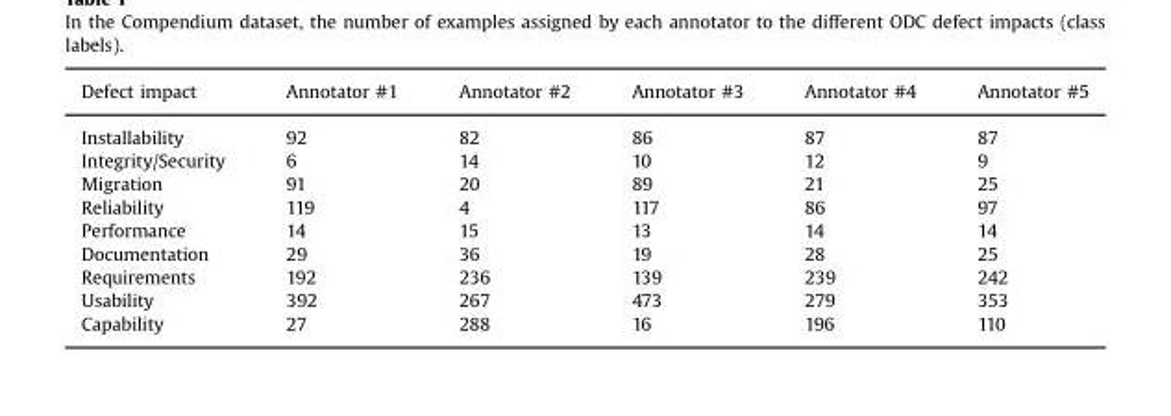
<table><thead><tr><td>Defect impact</td><td>Annotator #1</td><td>Annotator #2</td><td>Annotator #3</td><td>Annotator #4</td><td>Annotator #5</td></tr></thead><tbody><tr><td>Installability</td><td>92</td><td>82</td><td>86</td><td>87</td><td>87</td></tr><tr><td>Integrity/Security</td><td>6</td><td>14</td><td>10</td><td>12</td><td>9</td></tr><tr><td>Migration</td><td>91</td><td>20</td><td>89</td><td>21</td><td>25</td></tr><tr><td>Reliability</td><td>119</td><td>4</td><td>117</td><td>86</td><td>97</td></tr><tr><td>Performance</td><td>14</td><td>15</td><td>13</td><td>14</td><td>14</td></tr><tr><td>Documentation</td><td>29</td><td>36</td><td>19</td><td>28</td><td>25</td></tr><tr><td>Requirements</td><td>192</td><td>236</td><td>139</td><td>239</td><td>242</td></tr><tr><td>Usability</td><td>392</td><td>267</td><td>473</td><td>279</td><td>353</td></tr><tr><td>Capability</td><td>27</td><td>288</td><td>16</td><td>196</td><td>110</td></tr></tbody></table>